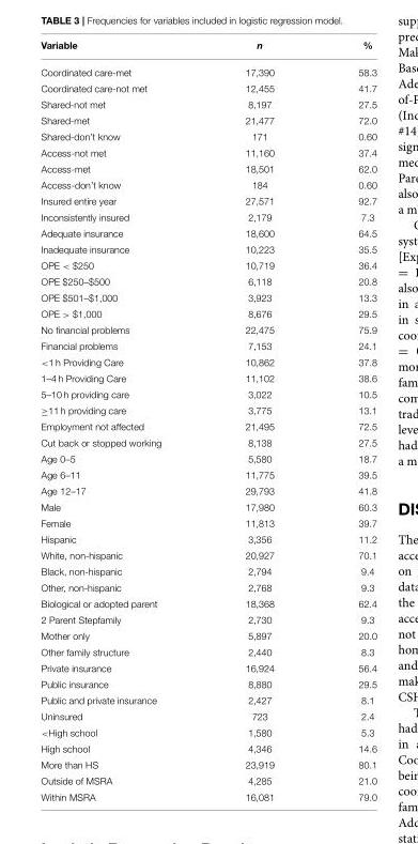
<table><thead><tr><td>Variable</td><td>n</td><td>%</td></tr></thead><tbody><tr><td>Coordinated care-met</td><td>17,390</td><td>58.3</td></tr><tr><td>Coordinated care-not met</td><td>12,455</td><td>41.7</td></tr><tr><td>Shared-not met</td><td>8,197</td><td>27.5</td></tr><tr><td>Shared-met</td><td>21,477</td><td>72.0</td></tr><tr><td>Shared-don’t know</td><td>171</td><td>0.60</td></tr><tr><td>Access-not met</td><td>11,160</td><td>37.4</td></tr><tr><td>Access-met</td><td>18,501</td><td>62.0</td></tr><tr><td>Access-don’t know</td><td>184</td><td>0.60</td></tr><tr><td>Insured entire year</td><td>27,571</td><td>92.7</td></tr><tr><td>Inconsistently insured</td><td>2,179</td><td>7.3</td></tr><tr><td>Adequate insurance</td><td>18,600</td><td>64.5</td></tr><tr><td>Inadequate insurance</td><td>10,223</td><td>35.5</td></tr><tr><td>OPE &lt; $250</td><td>10,719</td><td>36.4</td></tr><tr><td>OPE $250–$500</td><td>6,118</td><td>20.8</td></tr><tr><td>OPE $501–$1,000</td><td>3,923</td><td>13.3</td></tr><tr><td>OPE &gt; $1,000</td><td>8,676</td><td>29.5</td></tr><tr><td>No financial problems</td><td>22,475</td><td>75.9</td></tr><tr><td>Financial problems</td><td>7,153</td><td>24.1</td></tr><tr><td>&lt;1 h Providing Care</td><td>10,862</td><td>37.8</td></tr><tr><td>1–4 h Providing Care</td><td>11,102</td><td>38.6</td></tr><tr><td>5–10 h providing care</td><td>3,022</td><td>10.5</td></tr><tr><td>≥11 h providing care</td><td>3,775</td><td>13.1</td></tr><tr><td>Employment not affected</td><td>21,495</td><td>72.5</td></tr><tr><td>Cut back or stopped working</td><td>8,138</td><td>27.5</td></tr><tr><td>Age 0–5</td><td>5,580</td><td>18.7</td></tr><tr><td>Age 6–11</td><td>11,775</td><td>39.5</td></tr><tr><td>Age 12–17</td><td>29,793</td><td>41.8</td></tr><tr><td>Male</td><td>17,980</td><td>60.3</td></tr><tr><td>Female</td><td>11,813</td><td>39.7</td></tr><tr><td>Hispanic</td><td>3,356</td><td>11.2</td></tr><tr><td>White, non-hispanic</td><td>20,927</td><td>70.1</td></tr><tr><td>Black, non-hispanic</td><td>2,794</td><td>9.4</td></tr><tr><td>Other, non-hispanic</td><td>2,768</td><td>9.3</td></tr><tr><td>Biological or adopted parent</td><td>18,368</td><td>62.4</td></tr><tr><td>2 Parent Stepfamily</td><td>2,730</td><td>9.3</td></tr><tr><td>Mother only</td><td>5,897</td><td>20.0</td></tr><tr><td>Other family structure</td><td>2,440</td><td>8.3</td></tr><tr><td>Private insurance</td><td>16,924</td><td>56.4</td></tr><tr><td>Public insurance</td><td>8,880</td><td>29.5</td></tr><tr><td>Public and private insurance</td><td>2,427</td><td>8.1</td></tr><tr><td>Uninsured</td><td>723</td><td>2.4</td></tr><tr><td>&lt;High school</td><td>1,580</td><td>5.3</td></tr><tr><td>High school</td><td>4,346</td><td>14.6</td></tr><tr><td>More than HS</td><td>23,919</td><td>80.1</td></tr><tr><td>Outside of MSRA</td><td>4,285</td><td>21.0</td></tr><tr><td>Within MSRA</td><td>16,081</td><td>79.0</td></tr></tbody></table>